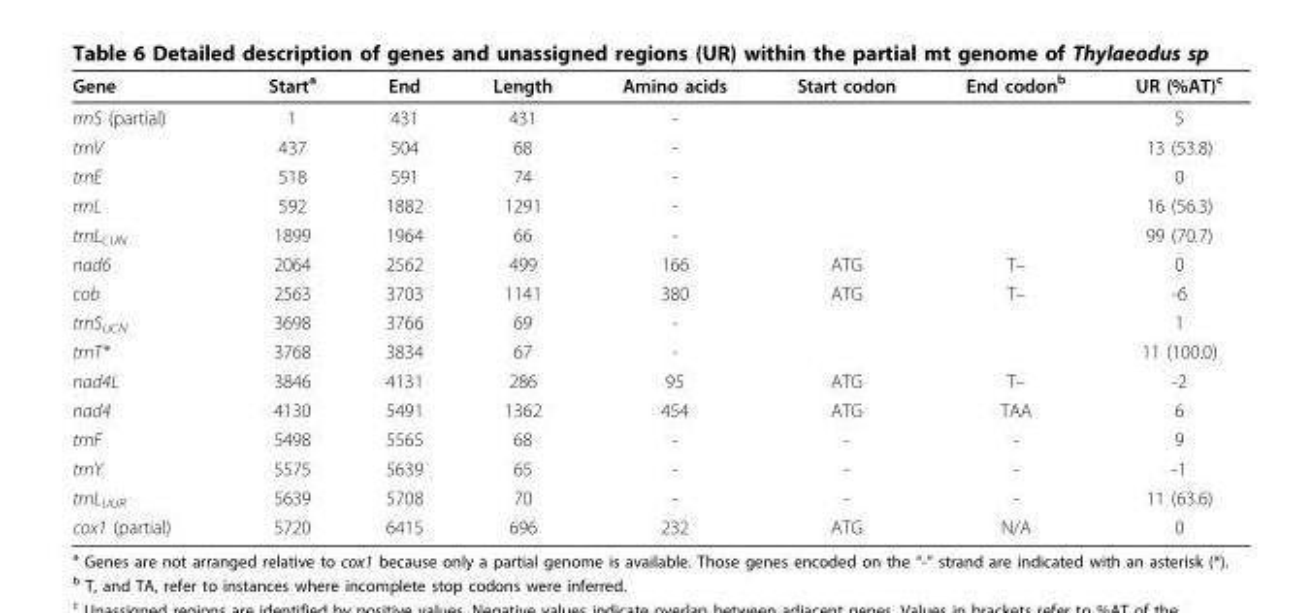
<table><thead><tr><td>Gene</td><td>Start<sup>a</sup></td><td>End</td><td>Length</td><td>Amino acids</td><td>Start codon</td><td>End codon<sup>b</sup></td><td>UR (%AT)<sup>c</sup></td></tr></thead><tbody><tr><td>rrnS (partial)</td><td>1</td><td>431</td><td>431</td><td>-</td><td></td><td></td><td>5</td></tr><tr><td>trnV</td><td>437</td><td>504</td><td>68</td><td>-</td><td></td><td></td><td>13 (53.8)</td></tr><tr><td>trnE</td><td>518</td><td>591</td><td>74</td><td>-</td><td></td><td></td><td>0</td></tr><tr><td>rrnL</td><td>592</td><td>1882</td><td>1291</td><td>-</td><td></td><td></td><td>16 (56.3)</td></tr><tr><td>trnL<sub>CUN</sub></td><td>1899</td><td>1964</td><td>66</td><td>-</td><td></td><td></td><td>99 (70.7)</td></tr><tr><td>nad6</td><td>2064</td><td>2562</td><td>499</td><td>166</td><td>ATG</td><td>T–</td><td>0</td></tr><tr><td>cob</td><td>2563</td><td>3703</td><td>1141</td><td>380</td><td>ATG</td><td>T–</td><td>-6</td></tr><tr><td>trnS<sub>UCN</sub></td><td>3698</td><td>3766</td><td>69</td><td>-</td><td></td><td></td><td>1</td></tr><tr><td>trnT*</td><td>3768</td><td>3834</td><td>67</td><td>-</td><td></td><td></td><td>11 (100.0)</td></tr><tr><td>nad4L</td><td>3846</td><td>4131</td><td>286</td><td>95</td><td>ATG</td><td>T–</td><td>-2</td></tr><tr><td>nad4</td><td>4130</td><td>5491</td><td>1362</td><td>454</td><td>ATG</td><td>TAA</td><td>6</td></tr><tr><td>trnF</td><td>5498</td><td>5565</td><td>68</td><td>-</td><td>-</td><td>-</td><td>9</td></tr><tr><td>trnY</td><td>5575</td><td>5639</td><td>65</td><td>-</td><td>-</td><td>-</td><td>-1</td></tr><tr><td>trnL<sub>UUR</sub></td><td>5639</td><td>5708</td><td>70</td><td>-</td><td>-</td><td>-</td><td>11 (63.6)</td></tr><tr><td>cox1 (partial)</td><td>5720</td><td>6415</td><td>696</td><td>232</td><td>ATG</td><td>N/A</td><td>0</td></tr></tbody></table>